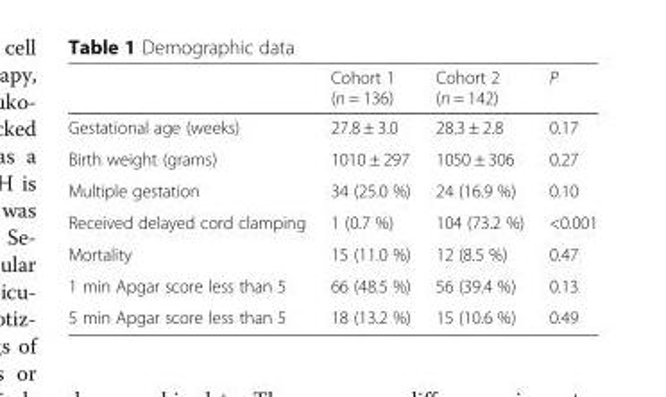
<table><thead><tr><td></td><td>Cohort 1 (n = 136)</td><td>Cohort 2 (n = 142)</td><td>P</td></tr></thead><tbody><tr><td>Gestational age (weeks)</td><td>27.8 ± 3.0</td><td>28.3 ± 2.8</td><td>0.17</td></tr><tr><td>Birth weight (grams)</td><td>1010 ± 297</td><td>1050 ± 306</td><td>0.27</td></tr><tr><td>Multiple gestation</td><td>34 (25.0 %)</td><td>24 (16.9 %)</td><td>0.10</td></tr><tr><td>Received delayed cord clamping</td><td>1 (0.7 %)</td><td>104 (73.2 %)</td><td>&lt;0.001</td></tr><tr><td>Mortality</td><td>15 (11.0 %)</td><td>12 (8.5 %)</td><td>0.47</td></tr><tr><td>1 min Apgar score less than 5</td><td>66 (48.5 %)</td><td>56 (39.4 %)</td><td>0.13</td></tr><tr><td>5 min Apgar score less than 5</td><td>18 (13.2 %)</td><td>15 (10.6 %)</td><td>0.49</td></tr></tbody></table>